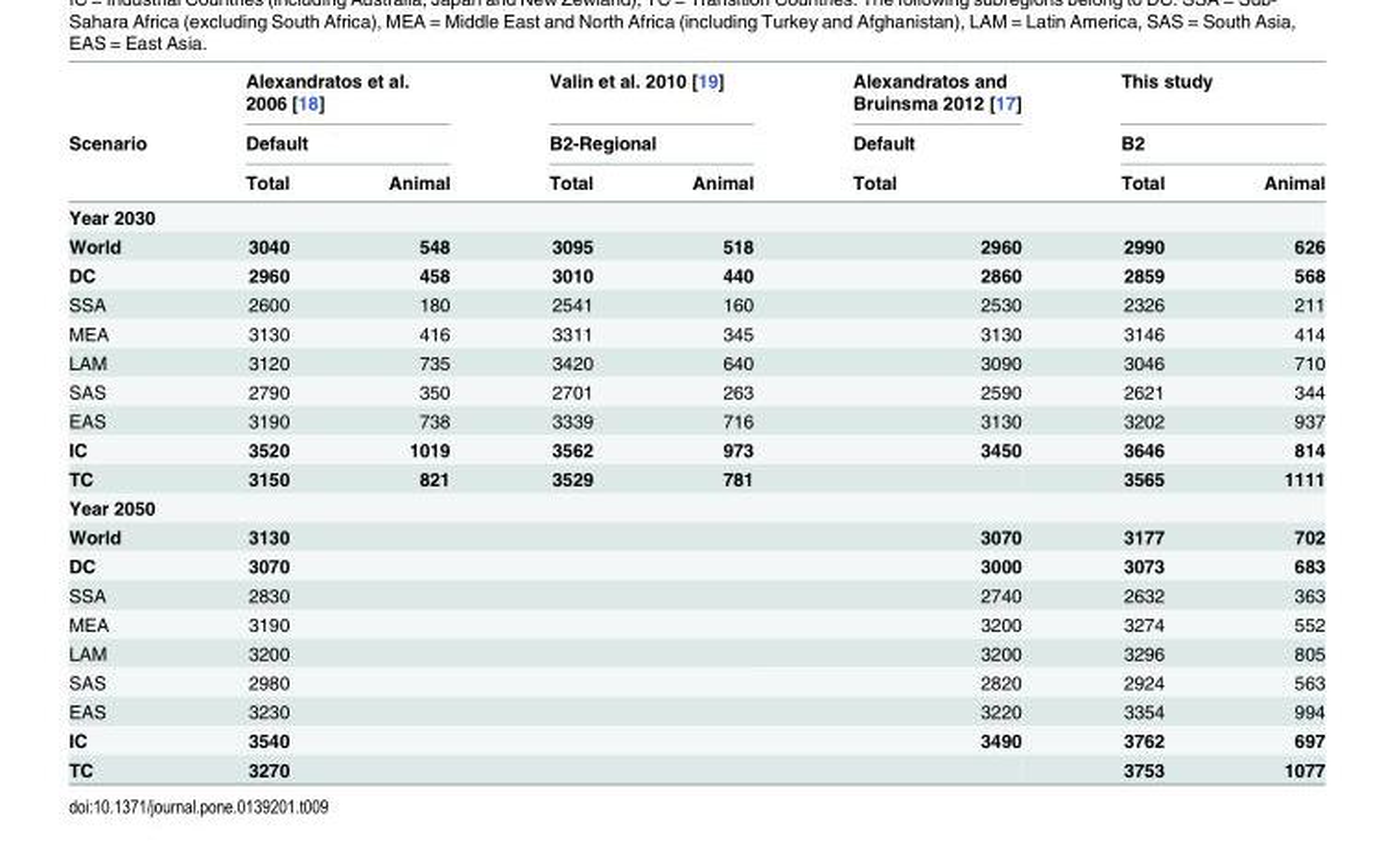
<table><thead><tr><td rowspan="3">Scenario</td><td rowspan="2" colspan="2">Alexandratos et al. 2006 [18] Default</td><td rowspan="2" colspan="2">Valin et al. 2010 [19] B2-Regional</td><td rowspan="3">Alexandratos and Bruinsma 2012 [17] Default Total</td><td rowspan="2" colspan="2">This study B2</td></tr><tr></tr><tr><td>Total</td><td>Animal</td><td>Total</td><td>Animal</td><td>Total</td><td>Animal</td></tr></thead><tbody><tr><td colspan="8">Year 2030</td></tr><tr><td>World</td><td>3040</td><td>548</td><td>3095</td><td>518</td><td>2960</td><td>2990</td><td>626</td></tr><tr><td>DC</td><td>2960</td><td>458</td><td>3010</td><td>440</td><td>2860</td><td>2859</td><td>568</td></tr><tr><td>SSA</td><td>2600</td><td>180</td><td>2541</td><td>160</td><td>2530</td><td>2326</td><td>211</td></tr><tr><td>MEA</td><td>3130</td><td>416</td><td>3311</td><td>345</td><td>3130</td><td>3146</td><td>414</td></tr><tr><td>LAM</td><td>3120</td><td>735</td><td>3420</td><td>640</td><td>3090</td><td>3046</td><td>710</td></tr><tr><td>SAS</td><td>2790</td><td>350</td><td>2701</td><td>263</td><td>2590</td><td>2621</td><td>344</td></tr><tr><td>EAS</td><td>3190</td><td>738</td><td>3339</td><td>716</td><td>3130</td><td>3202</td><td>937</td></tr><tr><td>IC</td><td>3520</td><td>1019</td><td>3562</td><td>973</td><td>3450</td><td>3646</td><td>814</td></tr><tr><td>TC</td><td>3150</td><td>821</td><td>3529</td><td>781</td><td></td><td>3565</td><td>1111</td></tr><tr><td colspan="8">Year 2050</td></tr><tr><td>World</td><td>3130</td><td></td><td></td><td></td><td>3070</td><td>3177</td><td>702</td></tr><tr><td>DC</td><td>3070</td><td></td><td></td><td></td><td>3000</td><td>3073</td><td>683</td></tr><tr><td>SSA</td><td>2830</td><td></td><td></td><td></td><td>2740</td><td>2632</td><td>363</td></tr><tr><td>MEA</td><td>3190</td><td></td><td></td><td></td><td>3200</td><td>3274</td><td>552</td></tr><tr><td>LAM</td><td>3200</td><td></td><td></td><td></td><td>3200</td><td>3296</td><td>805</td></tr><tr><td>SAS</td><td>2980</td><td></td><td></td><td></td><td>2820</td><td>2924</td><td>563</td></tr><tr><td>EAS</td><td>3230</td><td></td><td></td><td></td><td>3220</td><td>3354</td><td>994</td></tr><tr><td>IC</td><td>3540</td><td></td><td></td><td></td><td>3490</td><td>3762</td><td>697</td></tr><tr><td>TC</td><td>3270</td><td></td><td></td><td></td><td></td><td>3753</td><td>1077</td></tr></tbody></table>